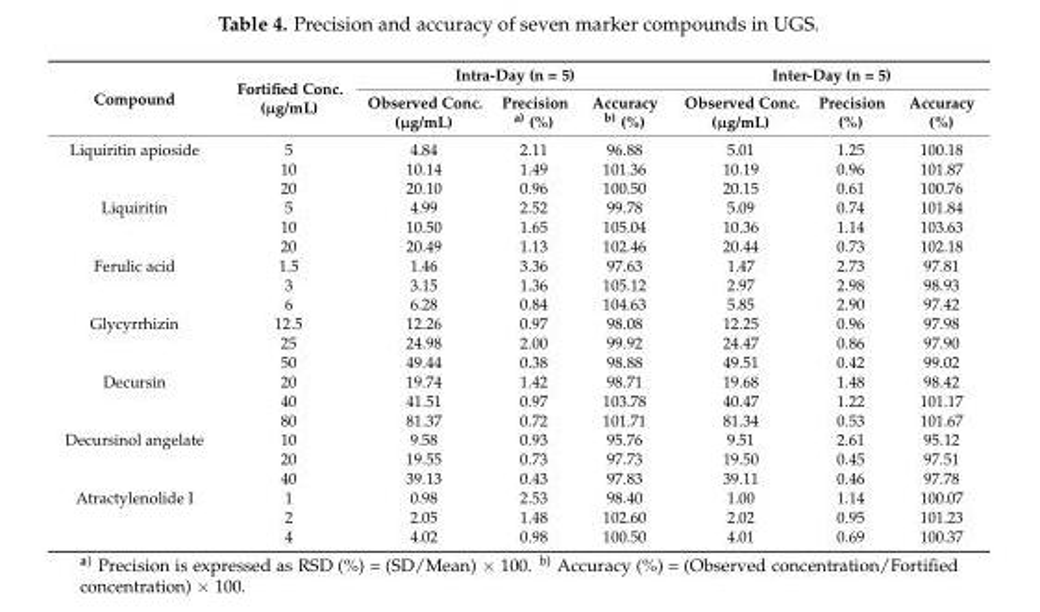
<table><thead><tr><td rowspan="2">Compound</td><td rowspan="2">Fortified Conc. (µg/mL)</td><td colspan="3">Intra-Day (n = 5)</td><td colspan="3">Inter-Day (n = 5)</td></tr><tr><td>Observed Conc. (µg/mL)</td><td>Precision <sup>a)</sup> (%)</td><td>Accuracy <sup>b)</sup> (%)</td><td>Observed Conc. (µg/mL)</td><td>Precision (%)</td><td>Accuracy (%)</td></tr></thead><tbody><tr><td rowspan="3">Liquiritin apioside</td><td>5</td><td>4.84</td><td>2.11</td><td>96.88</td><td>5.01</td><td>1.25</td><td>100.18</td></tr><tr><td>10</td><td>10.14</td><td>1.49</td><td>101.36</td><td>10.19</td><td>0.96</td><td>101.87</td></tr><tr><td>20</td><td>20.10</td><td>0.96</td><td>100.50</td><td>20.15</td><td>0.61</td><td>100.76</td></tr><tr><td rowspan="3">Liquiritin</td><td>5</td><td>4.99</td><td>2.52</td><td>99.78</td><td>5.09</td><td>0.74</td><td>101.84</td></tr><tr><td>10</td><td>10.50</td><td>1.65</td><td>105.04</td><td>10.36</td><td>1.14</td><td>103.63</td></tr><tr><td>20</td><td>20.49</td><td>1.13</td><td>102.46</td><td>20.44</td><td>0.73</td><td>102.18</td></tr><tr><td rowspan="3">Ferulic acid</td><td>1.5</td><td>1.46</td><td>3.36</td><td>97.63</td><td>1.47</td><td>2.73</td><td>97.81</td></tr><tr><td>3</td><td>3.15</td><td>1.36</td><td>105.12</td><td>2.97</td><td>2.98</td><td>98.93</td></tr><tr><td>6</td><td>6.28</td><td>0.84</td><td>104.63</td><td>5.85</td><td>2.90</td><td>97.42</td></tr><tr><td rowspan="3">Glycyrrhizin</td><td>12.5</td><td>12.26</td><td>0.97</td><td>98.08</td><td>12.25</td><td>0.96</td><td>97.98</td></tr><tr><td>25</td><td>24.98</td><td>2.00</td><td>99.92</td><td>24.47</td><td>0.86</td><td>97.90</td></tr><tr><td>50</td><td>49.44</td><td>0.38</td><td>98.88</td><td>49.51</td><td>0.42</td><td>99.02</td></tr><tr><td rowspan="3">Decursin</td><td>20</td><td>19.74</td><td>1.42</td><td>98.71</td><td>19.68</td><td>1.48</td><td>98.42</td></tr><tr><td>40</td><td>41.51</td><td>0.97</td><td>103.78</td><td>40.47</td><td>1.22</td><td>101.17</td></tr><tr><td>80</td><td>81.37</td><td>0.72</td><td>101.71</td><td>81.34</td><td>0.53</td><td>101.67</td></tr><tr><td rowspan="3">Decursinol angelate</td><td>10</td><td>9.58</td><td>0.93</td><td>95.76</td><td>9.51</td><td>2.61</td><td>95.12</td></tr><tr><td>20</td><td>19.55</td><td>0.73</td><td>97.73</td><td>19.50</td><td>0.45</td><td>97.51</td></tr><tr><td>40</td><td>39.13</td><td>0.43</td><td>97.83</td><td>39.11</td><td>0.46</td><td>97.78</td></tr><tr><td rowspan="3">Atractylenolide I</td><td>1</td><td>0.98</td><td>2.53</td><td>98.40</td><td>1.00</td><td>1.14</td><td>100.07</td></tr><tr><td>2</td><td>2.05</td><td>1.48</td><td>102.60</td><td>2.02</td><td>0.95</td><td>101.23</td></tr><tr><td>4</td><td>4.02</td><td>0.98</td><td>100.50</td><td>4.01</td><td>0.69</td><td>100.37</td></tr></tbody></table>